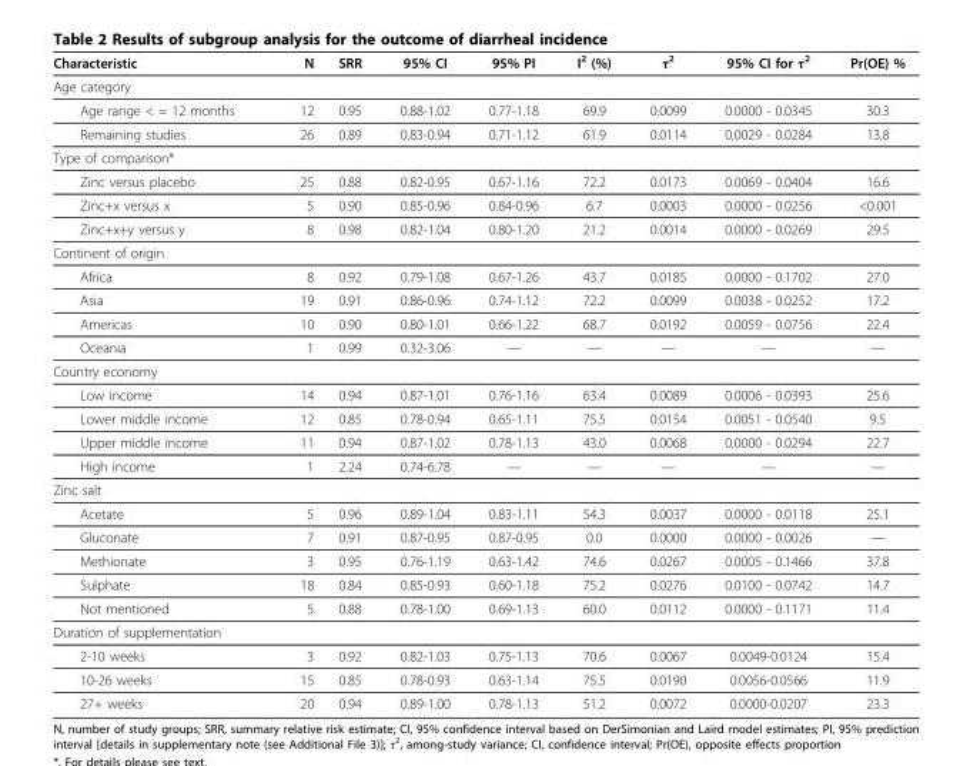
<table><thead><tr><td>Characteristic</td><td>N</td><td>SRR</td><td>95% CI</td><td>95% PI</td><td>I2 (%)</td><td>τ2</td><td>95% CI for τ2</td><td>Pr(OE) %</td></tr></thead><tbody><tr><td colspan="9">Age category</td></tr><tr><td>Age range &lt; = 12 months</td><td>12</td><td>0.95</td><td>0.88-1.02</td><td>0.77-1.18</td><td>69.9</td><td>0.0099</td><td>0.0000 - 0.0345</td><td>30.3</td></tr><tr><td>Remaining studies</td><td>26</td><td>0.89</td><td>0.83-0.94</td><td>0.71-1.12</td><td>61.9</td><td>0.0114</td><td>0.0029 - 0.0284</td><td>13.8</td></tr><tr><td colspan="9">Type of comparison*</td></tr><tr><td>Zinc versus placebo</td><td>25</td><td>0.88</td><td>0.82-0.95</td><td>0.67-1.16</td><td>72.2</td><td>0.0173</td><td>0.0069 - 0.0404</td><td>16.6</td></tr><tr><td>Zinc+x versus x</td><td>5</td><td>0.90</td><td>0.85-0.96</td><td>0.84-0.96</td><td>6.7</td><td>0.0003</td><td>0.0000 - 0.0256</td><td>&lt;0.001</td></tr><tr><td>Zinc+x+y versus y</td><td>8</td><td>0.98</td><td>0.82-1.04</td><td>0.80-1.20</td><td>21.2</td><td>0.0014</td><td>0.0000 - 0.0269</td><td>29.5</td></tr><tr><td colspan="9">Continent of origin</td></tr><tr><td>Africa</td><td>8</td><td>0.92</td><td>0.79-1.08</td><td>0.67-1.26</td><td>43.7</td><td>0.0185</td><td>0.0000 - 0.1702</td><td>27.0</td></tr><tr><td>Asia</td><td>19</td><td>0.91</td><td>0.86-0.96</td><td>0.74-1.12</td><td>72.2</td><td>0.0099</td><td>0.0038 - 0.0252</td><td>17.2</td></tr><tr><td>Americas</td><td>10</td><td>0.90</td><td>0.80-1.01</td><td>0.66-1.22</td><td>68.7</td><td>0.0192</td><td>0.0059 - 0.0756</td><td>22.4</td></tr><tr><td>Oceania</td><td>1</td><td>0.99</td><td>0.32-3.06</td><td>—</td><td>—</td><td>—</td><td>—</td><td>—</td></tr><tr><td colspan="9">Country economy</td></tr><tr><td>Low income</td><td>14</td><td>0.94</td><td>0.87-1.01</td><td>0.76-1.16</td><td>63.4</td><td>0.0089</td><td>0.0006 - 0.0393</td><td>25.6</td></tr><tr><td>Lower middle income</td><td>12</td><td>0.85</td><td>0.78-0.94</td><td>0.65-1.11</td><td>75.5</td><td>0.0154</td><td>0.0051 - 0.0540</td><td>9.5</td></tr><tr><td>Upper middle income</td><td>11</td><td>0.94</td><td>0.87-1.02</td><td>0.78-1.13</td><td>43.0</td><td>0.0068</td><td>0.0000 - 0.0294</td><td>22.7</td></tr><tr><td>High income</td><td>1</td><td>2.24</td><td>0.74-6.78</td><td>—</td><td>—</td><td>—</td><td>—</td><td>—</td></tr><tr><td colspan="9">Zinc salt</td></tr><tr><td>Acetate</td><td>5</td><td>0.96</td><td>0.89-1.04</td><td>0.83-1.11</td><td>54.3</td><td>0.0037</td><td>0.0000 - 0.0118</td><td>25.1</td></tr><tr><td>Gluconate</td><td>7</td><td>0.91</td><td>0.87-0.95</td><td>0.87-0.95</td><td>0.0</td><td>0.0000</td><td>0.0000 - 0.0026</td><td>—</td></tr><tr><td>Methionate</td><td>3</td><td>0.95</td><td>0.76-1.19</td><td>0.63-1.42</td><td>74.6</td><td>0.0267</td><td>0.0005 - 0.1466</td><td>37.8</td></tr><tr><td>Sulphate</td><td>18</td><td>0.84</td><td>0.85-0.93</td><td>0.60-1.18</td><td>75.2</td><td>0.0276</td><td>0.0100 - 0.0742</td><td>14.7</td></tr><tr><td>Not mentioned</td><td>5</td><td>0.88</td><td>0.78-1.00</td><td>0.69-1.13</td><td>60.0</td><td>0.0112</td><td>0.0000 - 0.1171</td><td>11.4</td></tr><tr><td colspan="9">Duration of supplementation</td></tr><tr><td>2-10 weeks</td><td>3</td><td>0.92</td><td>0.82-1.03</td><td>0.75-1.13</td><td>70.6</td><td>0.0067</td><td>0.0049-0.0124</td><td>15.4</td></tr><tr><td>10-26 weeks</td><td>15</td><td>0.85</td><td>0.78-0.93</td><td>0.63-1.14</td><td>75.5</td><td>0.0190</td><td>0.0056-0.0566</td><td>11.9</td></tr><tr><td>27+ weeks</td><td>20</td><td>0.94</td><td>0.89-1.00</td><td>0.78-1.13</td><td>51.2</td><td>0.0072</td><td>0.0000-0.0207</td><td>23.3</td></tr></tbody></table>